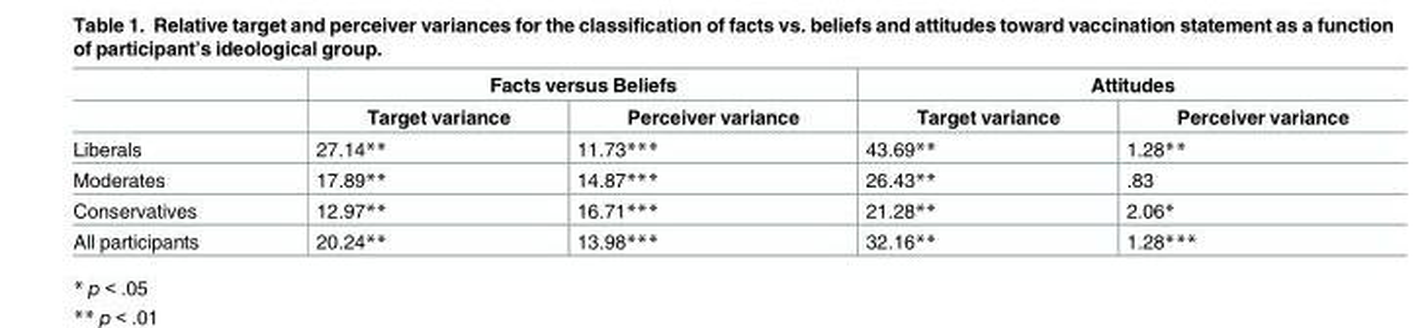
<table><thead><tr><td rowspan="2"></td><td colspan="2">Facts versus Beliefs</td><td colspan="2">Attitudes</td></tr><tr><td>Target variance</td><td>Perceiver variance</td><td>Target variance</td><td>Perceiver variance</td></tr></thead><tbody><tr><td>Liberals</td><td>27.14**</td><td>11.73***</td><td>43.69**</td><td>1.28**</td></tr><tr><td>Moderates</td><td>17.89**</td><td>14.87***</td><td>26.43**</td><td>.83</td></tr><tr><td>Conservatives</td><td>12.97**</td><td>16.71***</td><td>21.28**</td><td>2.06*</td></tr><tr><td>All participants</td><td>20.24**</td><td>13.98***</td><td>32.16**</td><td>1.28***</td></tr></tbody></table>